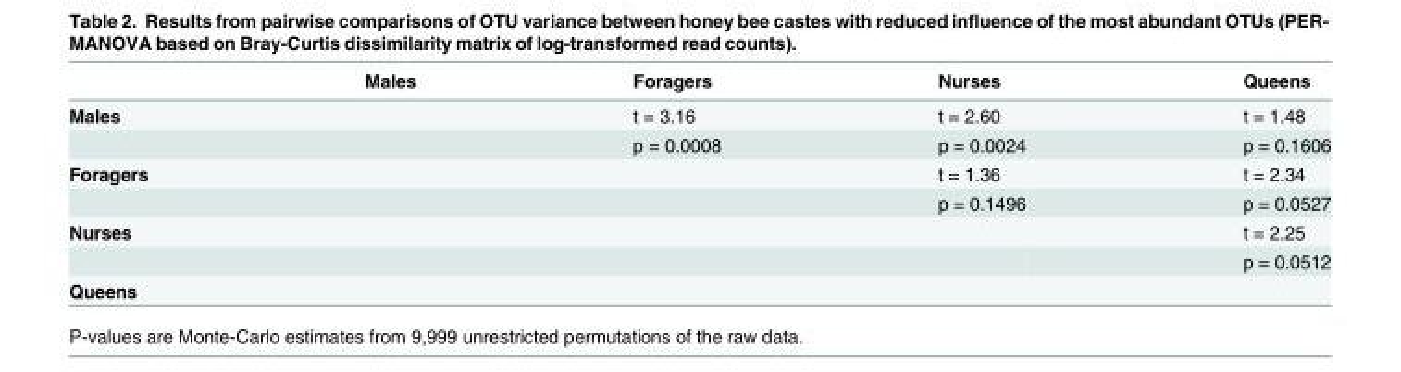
<table><thead><tr><td></td><td>Males</td><td>Foragers</td><td>Nurses</td><td>Queens</td></tr></thead><tbody><tr><td rowspan="2">Males</td><td></td><td>t = 3.16</td><td>t = 2.60</td><td>t = 1.48</td></tr><tr><td></td><td>p = 0.0008</td><td>p = 0.0024</td><td>p = 0.1606</td></tr><tr><td rowspan="2">Foragers</td><td></td><td></td><td>t = 1.36</td><td>t = 2.34</td></tr><tr><td></td><td></td><td>p = 0.1496</td><td>p = 0.0527</td></tr><tr><td rowspan="2">Nurses</td><td></td><td></td><td></td><td>t = 2.25</td></tr><tr><td></td><td></td><td></td><td>p = 0.0512</td></tr><tr><td>Queens</td><td></td><td></td><td></td><td></td></tr></tbody></table>